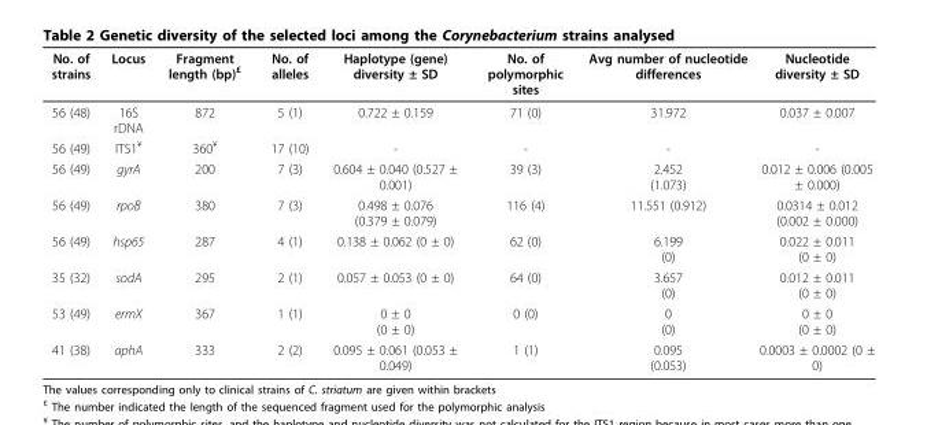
<table><thead><tr><td>No. of strains</td><td>Locus</td><td>Fragment length (bp)<sup>£</sup></td><td>No. of alleles</td><td>Haplotype (gene) diversity ± SD</td><td>No. of polymorphic sites</td><td>Avg number of nucleotide differences</td><td>Nucleotide diversity ± SD</td></tr></thead><tbody><tr><td>56 (48)</td><td>16S rDNA</td><td>872</td><td>5 (1)</td><td>0.722 ± 0.159</td><td>71 (0)</td><td>31.972</td><td>0.037 ± 0.007</td></tr><tr><td>56 (49)</td><td>ITS1<sup>¥</sup></td><td>360<sup>¥</sup></td><td>17 (10)</td><td>-</td><td>-</td><td>-</td><td>-</td></tr><tr><td>56 (49)</td><td>gyrA</td><td>200</td><td>7 (3)</td><td>0.604 ± 0.040 (0.527 ± 0.001)</td><td>39 (3)</td><td>2.452 (1.073)</td><td>0.012 ± 0.006 (0.005 ± 0.000)</td></tr><tr><td>56 (49)</td><td>rpoB</td><td>380</td><td>7 (3)</td><td>0.498 ± 0.076 (0.379 ± 0.079)</td><td>116 (4)</td><td>11.551 (0.912)</td><td>0.0314 ± 0.012 (0.002 ± 0.000)</td></tr><tr><td>56 (49)</td><td>hsp65</td><td>287</td><td>4 (1)</td><td>0.138 ± 0.062 (0 ± 0)</td><td>62 (0)</td><td>6.199 (0)</td><td>0.022 ± 0.011 (0 ± 0)</td></tr><tr><td>35 (32)</td><td>sodA</td><td>295</td><td>2 (1)</td><td>0.057 ± 0.053 (0 ± 0)</td><td>64 (0)</td><td>3.657 (0)</td><td>0.012 ± 0.011 (0 ± 0)</td></tr><tr><td>53 (49)</td><td>ermX</td><td>367</td><td>1 (1)</td><td>0 ± 0 (0 ± 0)</td><td>0 (0)</td><td>0 (0)</td><td>0 ± 0 (0 ± 0)</td></tr><tr><td>41 (38)</td><td>aphA</td><td>333</td><td>2 (2)</td><td>0.095 ± 0.061 (0.053 ± 0.049)</td><td>1 (1)</td><td>0.095 (0.053)</td><td>0.0003 ± 0.0002 (0 ± 0)</td></tr></tbody></table>